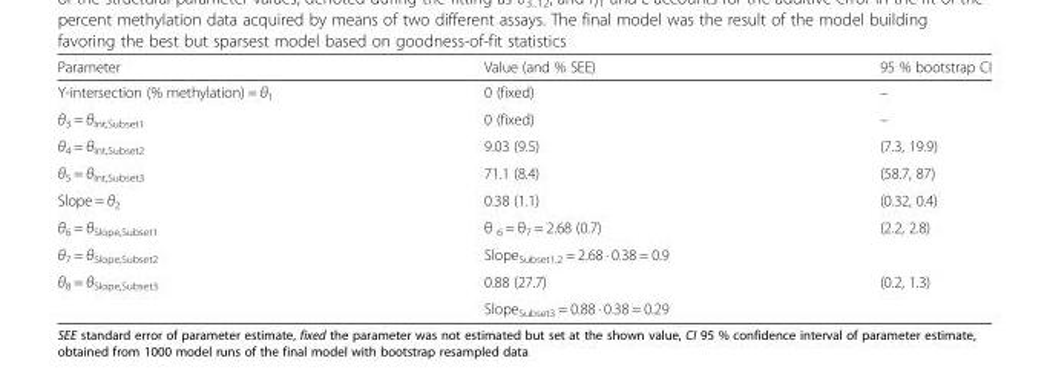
<table><thead><tr><td>Parameter</td><td>Value (and % SEE)</td><td>95 % bootstrap CI</td></tr></thead><tbody><tr><td>Y-intersection (% methylation) = θ<sub>1</sub></td><td>0 (fixed)</td><td>–</td></tr><tr><td>θ<sub>3</sub> = θ<sub>Int,Subset1</sub></td><td>0 (fixed)</td><td>–</td></tr><tr><td>θ<sub>4</sub> = θ<sub>Int,Subset2</sub></td><td>9.03 (9.5)</td><td>(7.3, 19.9)</td></tr><tr><td>θ<sub>5</sub> = θ<sub>Int,Subset3</sub></td><td>71.1 (8.4)</td><td>(58.7, 87)</td></tr><tr><td>Slope = θ<sub>2</sub></td><td>0.38 (1.1)</td><td>(0.32, 0.4)</td></tr><tr><td>θ<sub>6</sub> = θ<sub>Slope,Subset1</sub></td><td>θ <sub>6</sub> = θ<sub>7</sub> = 2.68 (0.7)</td><td rowspan="2">(2.2, 2.8)</td></tr><tr><td>θ<sub>7</sub> = θ<sub>Slope,Subset2</sub></td><td>Slope<sub>Subset1,2</sub> = 2.68 · 0.38 = 0.9</td></tr><tr><td rowspan="2">θ<sub>8</sub> = θ<sub>Slope,Subset3</sub></td><td>0.88 (27.7)</td><td rowspan="2">(0.2, 1.3)</td></tr><tr><td>Slope<sub>Subset3</sub> = 0.88 · 0.38 = 0.29</td></tr></tbody></table>